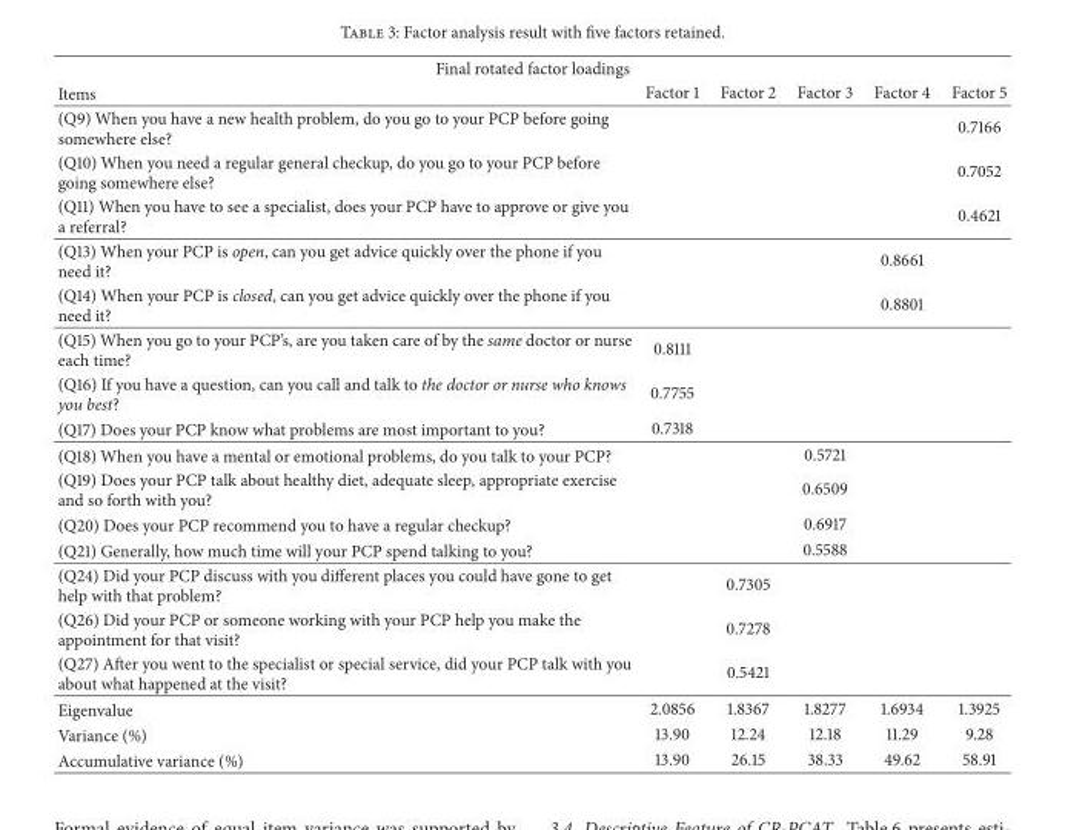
<table><thead><tr><td colspan="6">Final rotated factor loadings</td></tr><tr><td>Items</td><td>Factor 1</td><td>Factor 2</td><td>Factor 3</td><td>Factor 4</td><td>Factor 5</td></tr></thead><tbody><tr><td>(Q9) When you have a new health problem, do you go to your PCP before going somewhere else?</td><td></td><td></td><td></td><td></td><td>0.7166</td></tr><tr><td>(Q10) When you need a regular general checkup, do you go to your PCP before going somewhere else?</td><td></td><td></td><td></td><td></td><td>0.7052</td></tr><tr><td>(Q11) When you have to see a specialist, does your PCP have to approve or give you a referral?</td><td></td><td></td><td></td><td></td><td>0.4621</td></tr><tr><td>(Q13) When your PCP is open, can you get advice quickly over the phone if you need it?</td><td></td><td></td><td></td><td>0.8661</td><td></td></tr><tr><td>(Q14) When your PCP is closed, can you get advice quickly over the phone if you need it?</td><td></td><td></td><td></td><td>0.8801</td><td></td></tr><tr><td>(Q15) When you go to your PCP’s, are you taken care of by the same doctor or nurse each time?</td><td>0.8111</td><td></td><td></td><td></td><td></td></tr><tr><td>(Q16) If you have a question, can you call and talk to the doctor or nurse who knows you best?</td><td>0.7755</td><td></td><td></td><td></td><td></td></tr><tr><td>(Q17) Does your PCP know what problems are most important to you?</td><td>0.7318</td><td></td><td></td><td></td><td></td></tr><tr><td>(Q18) When you have a mental or emotional problems, do you talk to your PCP?</td><td></td><td></td><td>0.5721</td><td></td><td></td></tr><tr><td>(Q19) Does your PCP talk about healthy diet, adequate sleep, appropriate exercise and so forth with you?</td><td></td><td></td><td>0.6509</td><td></td><td></td></tr><tr><td>(Q20) Does your PCP recommend you to have a regular checkup?</td><td></td><td></td><td>0.6917</td><td></td><td></td></tr><tr><td>(Q21) Generally, how much time will your PCP spend talking to you?</td><td></td><td></td><td>0.5588</td><td></td><td></td></tr><tr><td>(Q24) Did your PCP discuss with you different places you could have gone to get help with that problem?</td><td></td><td>0.7305</td><td></td><td></td><td></td></tr><tr><td>(Q26) Did your PCP or someone working with your PCP help you make the appointment for that visit?</td><td></td><td>0.7278</td><td></td><td></td><td></td></tr><tr><td>(Q27) After you went to the specialist or special service, did your PCP talk with you about what happened at the visit?</td><td></td><td>0.5421</td><td></td><td></td><td></td></tr><tr><td>Eigenvalue</td><td>2.0856</td><td>1.8367</td><td>1.8277</td><td>1.6934</td><td>1.3925</td></tr><tr><td>Variance (%)</td><td>13.90</td><td>12.24</td><td>12.18</td><td>11.29</td><td>9.28</td></tr><tr><td>Accumulative variance (%)</td><td>13.90</td><td>26.15</td><td>38.33</td><td>49.62</td><td>58.91</td></tr></tbody></table>